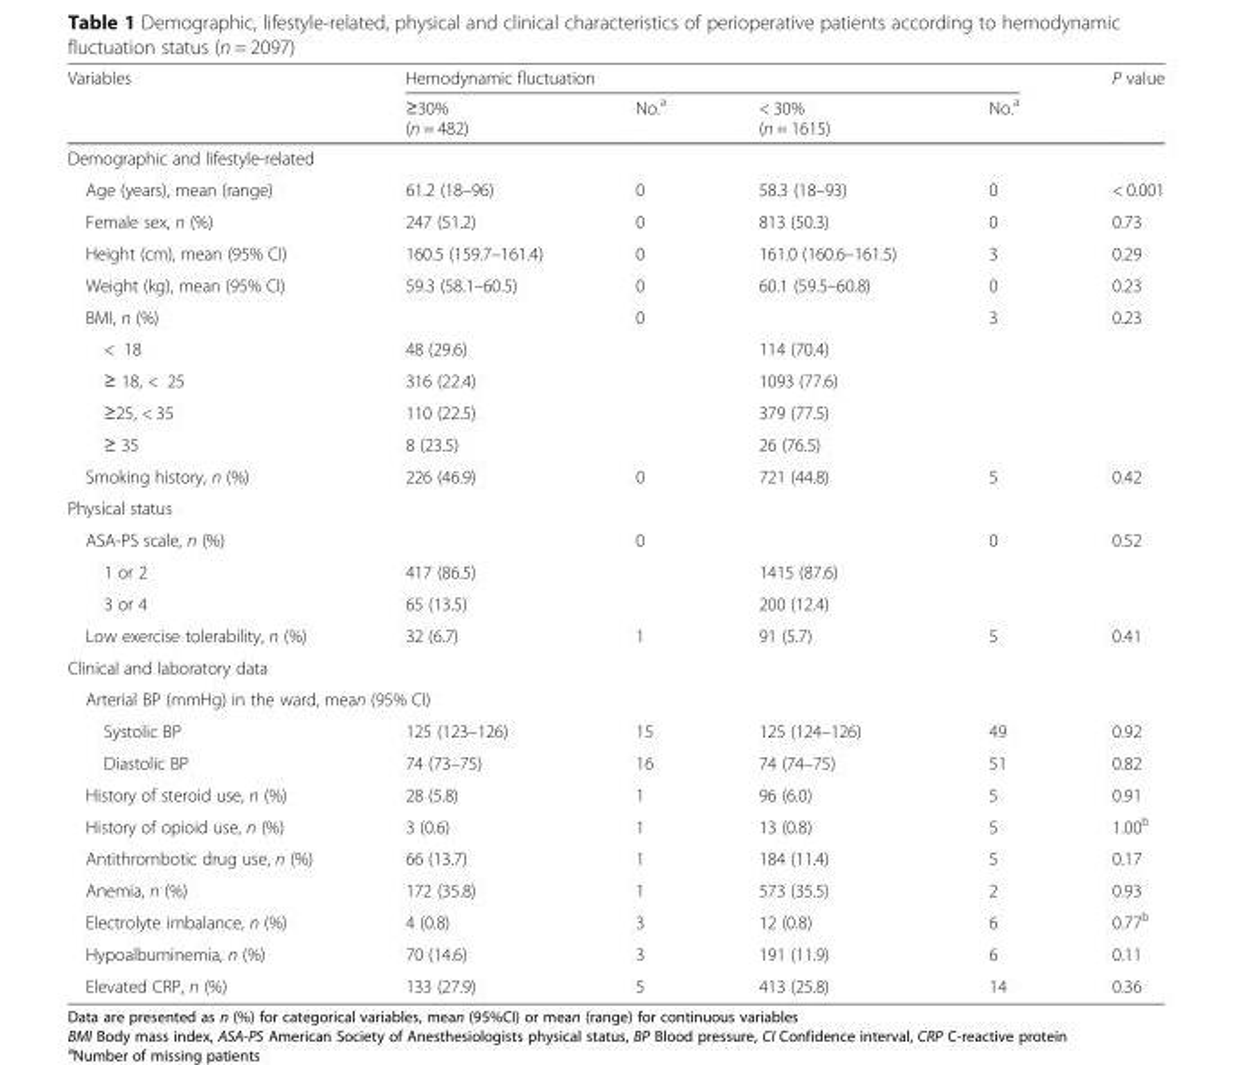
<table><thead><tr><td rowspan="2">Variables</td><td colspan="4">Hemodynamic fluctuation</td><td rowspan="2">P value</td></tr><tr><td>≥30% (n = 482)</td><td>No.<sup>a</sup></td><td>&lt; 30% (n = 1615)</td><td>No.<sup>a</sup></td></tr></thead><tbody><tr><td colspan="6">Demographic and lifestyle-related</td></tr><tr><td>Age (years), mean (range)</td><td>61.2 (18–96)</td><td>0</td><td>58.3 (18–93)</td><td>0</td><td>&lt; 0.001</td></tr><tr><td>Female sex, n (%)</td><td>247 (51.2)</td><td>0</td><td>813 (50.3)</td><td>0</td><td>0.73</td></tr><tr><td>Height (cm), mean (95% CI)</td><td>160.5 (159.7–161.4)</td><td>0</td><td>161.0 (160.6–161.5)</td><td>3</td><td>0.29</td></tr><tr><td>Weight (kg), mean (95% CI)</td><td>59.3 (58.1–60.5)</td><td>0</td><td>60.1 (59.5–60.8)</td><td>0</td><td>0.23</td></tr><tr><td>BMI, n (%)</td><td></td><td>0</td><td></td><td>3</td><td>0.23</td></tr><tr><td>&lt; 18</td><td>48 (29.6)</td><td></td><td>114 (70.4)</td><td></td><td></td></tr><tr><td>≥ 18, &lt; 25</td><td>316 (22.4)</td><td></td><td>1093 (77.6)</td><td></td><td></td></tr><tr><td>≥25, &lt; 35</td><td>110 (22.5)</td><td></td><td>379 (77.5)</td><td></td><td></td></tr><tr><td>≥ 35</td><td>8 (23.5)</td><td></td><td>26 (76.5)</td><td></td><td></td></tr><tr><td>Smoking history, n (%)</td><td>226 (46.9)</td><td>0</td><td>721 (44.8)</td><td>5</td><td>0.42</td></tr><tr><td colspan="6">Physical status</td></tr><tr><td>ASA-PS scale, n (%)</td><td></td><td>0</td><td></td><td>0</td><td>0.52</td></tr><tr><td>1 or 2</td><td>417 (86.5)</td><td></td><td>1415 (87.6)</td><td></td><td></td></tr><tr><td>3 or 4</td><td>65 (13.5)</td><td></td><td>200 (12.4)</td><td></td><td></td></tr><tr><td>Low exercise tolerability, n (%)</td><td>32 (6.7)</td><td>1</td><td>91 (5.7)</td><td>5</td><td>0.41</td></tr><tr><td colspan="6">Clinical and laboratory data</td></tr><tr><td colspan="6">Arterial BP (mmHg) in the ward, mean (95% CI)</td></tr><tr><td>Systolic BP</td><td>125 (123–126)</td><td>15</td><td>125 (124–126)</td><td>49</td><td>0.92</td></tr><tr><td>Diastolic BP</td><td>74 (73–75)</td><td>16</td><td>74 (74–75)</td><td>51</td><td>0.82</td></tr><tr><td>History of steroid use, n (%)</td><td>28 (5.8)</td><td>1</td><td>96 (6.0)</td><td>5</td><td>0.91</td></tr><tr><td>History of opioid use, n (%)</td><td>3 (0.6)</td><td>1</td><td>13 (0.8)</td><td>5</td><td>1.00<sup>b</sup></td></tr><tr><td>Antithrombotic drug use, n (%)</td><td>66 (13.7)</td><td>1</td><td>184 (11.4)</td><td>5</td><td>0.17</td></tr><tr><td>Anemia, n (%)</td><td>172 (35.8)</td><td>1</td><td>573 (35.5)</td><td>2</td><td>0.93</td></tr><tr><td>Electrolyte imbalance, n (%)</td><td>4 (0.8)</td><td>3</td><td>12 (0.8)</td><td>6</td><td>0.77<sup>b</sup></td></tr><tr><td>Hypoalbuminemia, n (%)</td><td>70 (14.6)</td><td>3</td><td>191 (11.9)</td><td>6</td><td>0.11</td></tr><tr><td>Elevated CRP, n (%)</td><td>133 (27.9)</td><td>5</td><td>413 (25.8)</td><td>14</td><td>0.36</td></tr></tbody></table>